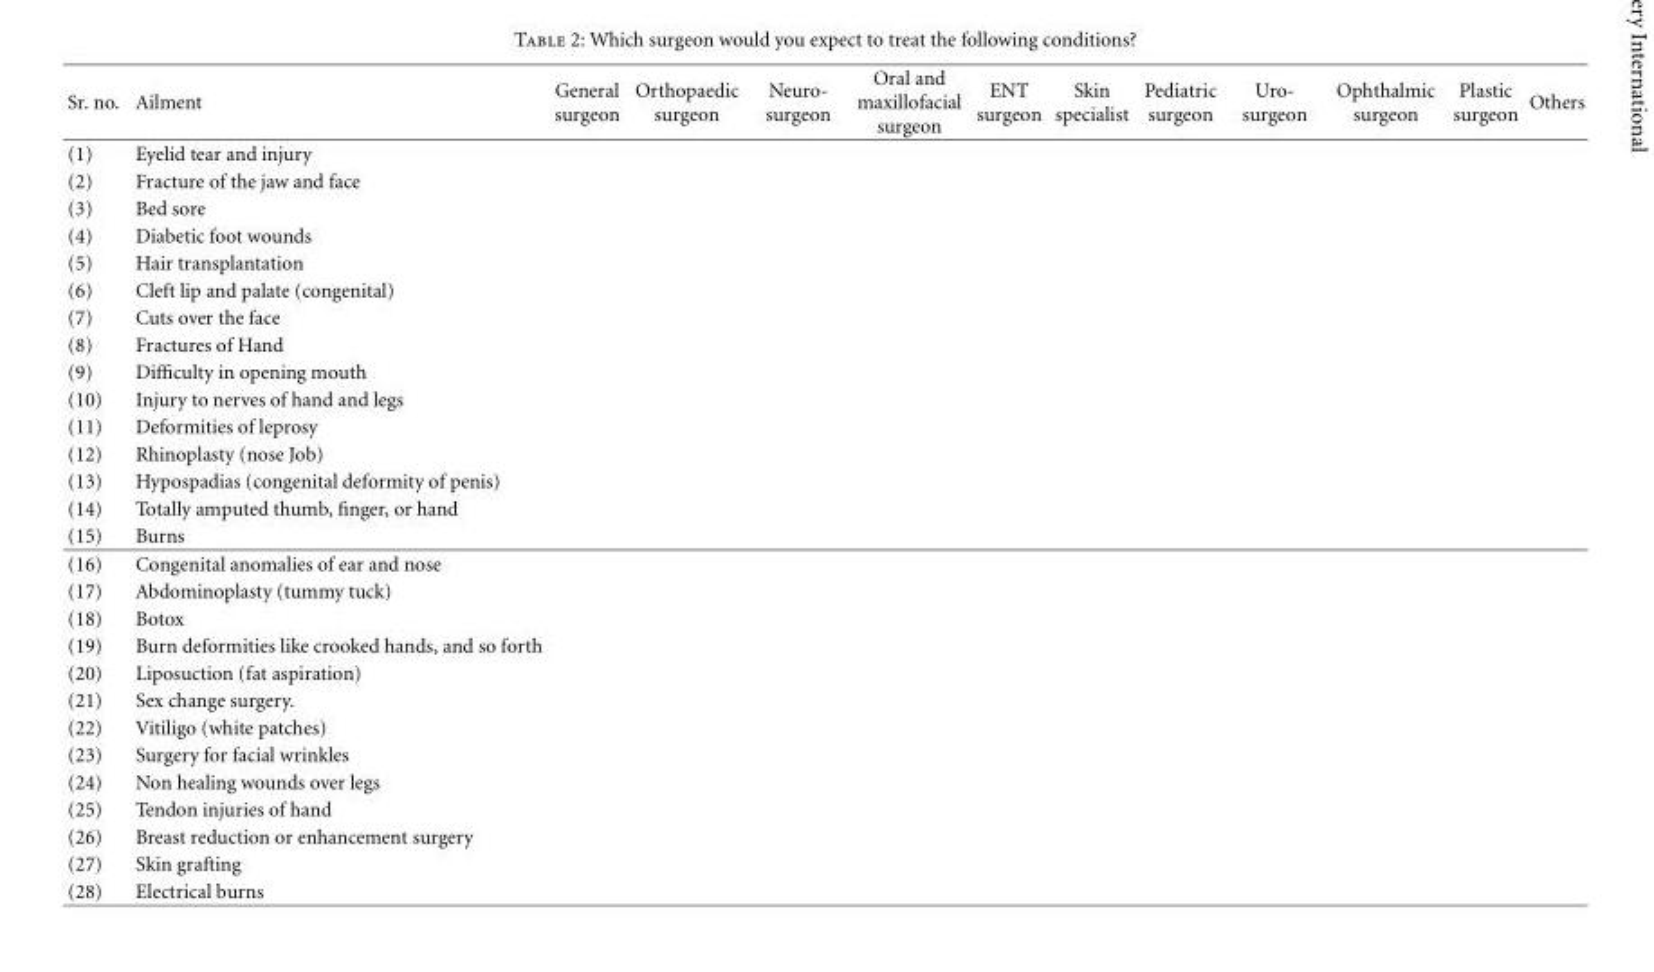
<table><thead><tr><td>Sr. no.</td><td>Ailment</td><td>General surgeon</td><td>Orthopaedic surgeon</td><td>Neuro- surgeon</td><td>Oral and maxillofacial surgeon</td><td>ENT surgeon</td><td>Skin specialist</td><td>Pediatric surgeon</td><td>Uro- surgeon</td><td>Ophthalmic surgeon</td><td>Plastic surgeon</td><td>Others</td></tr></thead><tbody><tr><td>(1)</td><td>Eyelid tear and injury</td><td></td><td></td><td></td><td></td><td></td><td></td><td></td><td></td><td></td><td></td><td></td></tr><tr><td>(2)</td><td>Fracture of the jaw and face</td><td></td><td></td><td></td><td></td><td></td><td></td><td></td><td></td><td></td><td></td><td></td></tr><tr><td>(3)</td><td>Bed sore</td><td></td><td></td><td></td><td></td><td></td><td></td><td></td><td></td><td></td><td></td><td></td></tr><tr><td>(4)</td><td>Diabetic foot wounds</td><td></td><td></td><td></td><td></td><td></td><td></td><td></td><td></td><td></td><td></td><td></td></tr><tr><td>(5)</td><td>Hair transplantation</td><td></td><td></td><td></td><td></td><td></td><td></td><td></td><td></td><td></td><td></td><td></td></tr><tr><td>(6)</td><td>Cleft lip and palate (congenital)</td><td></td><td></td><td></td><td></td><td></td><td></td><td></td><td></td><td></td><td></td><td></td></tr><tr><td>(7)</td><td>Cuts over the face</td><td></td><td></td><td></td><td></td><td></td><td></td><td></td><td></td><td></td><td></td><td></td></tr><tr><td>(8)</td><td>Fractures of Hand</td><td></td><td></td><td></td><td></td><td></td><td></td><td></td><td></td><td></td><td></td><td></td></tr><tr><td>(9)</td><td>Difficulty in opening mouth</td><td></td><td></td><td></td><td></td><td></td><td></td><td></td><td></td><td></td><td></td><td></td></tr><tr><td>(10)</td><td>Injury to nerves of hand and legs</td><td></td><td></td><td></td><td></td><td></td><td></td><td></td><td></td><td></td><td></td><td></td></tr><tr><td>(11)</td><td>Deformities of leprosy</td><td></td><td></td><td></td><td></td><td></td><td></td><td></td><td></td><td></td><td></td><td></td></tr><tr><td>(12)</td><td>Rhinoplasty (nose Job)</td><td></td><td></td><td></td><td></td><td></td><td></td><td></td><td></td><td></td><td></td><td></td></tr><tr><td>(13)</td><td>Hypospadias (congenital deformity of penis)</td><td></td><td></td><td></td><td></td><td></td><td></td><td></td><td></td><td></td><td></td><td></td></tr><tr><td>(14)</td><td>Totally amputed thumb, finger, or hand</td><td></td><td></td><td></td><td></td><td></td><td></td><td></td><td></td><td></td><td></td><td></td></tr><tr><td>(15)</td><td>Burns</td><td></td><td></td><td></td><td></td><td></td><td></td><td></td><td></td><td></td><td></td><td></td></tr><tr><td>(16)</td><td>Congenital anomalies of ear and nose</td><td></td><td></td><td></td><td></td><td></td><td></td><td></td><td></td><td></td><td></td><td></td></tr><tr><td>(17)</td><td>Abdominoplasty (tummy tuck)</td><td></td><td></td><td></td><td></td><td></td><td></td><td></td><td></td><td></td><td></td><td></td></tr><tr><td>(18)</td><td>Botox</td><td></td><td></td><td></td><td></td><td></td><td></td><td></td><td></td><td></td><td></td><td></td></tr><tr><td>(19)</td><td>Burn deformities like crooked hands, and so forth</td><td></td><td></td><td></td><td></td><td></td><td></td><td></td><td></td><td></td><td></td><td></td></tr><tr><td>(20)</td><td>Liposuction (fat aspiration)</td><td></td><td></td><td></td><td></td><td></td><td></td><td></td><td></td><td></td><td></td><td></td></tr><tr><td>(21)</td><td>Sex change surgery.</td><td></td><td></td><td></td><td></td><td></td><td></td><td></td><td></td><td></td><td></td><td></td></tr><tr><td>(22)</td><td>Vitiligo (white patches)</td><td></td><td></td><td></td><td></td><td></td><td></td><td></td><td></td><td></td><td></td><td></td></tr><tr><td>(23)</td><td>Surgery for facial wrinkles</td><td></td><td></td><td></td><td></td><td></td><td></td><td></td><td></td><td></td><td></td><td></td></tr><tr><td>(24)</td><td>Non healing wounds over legs</td><td></td><td></td><td></td><td></td><td></td><td></td><td></td><td></td><td></td><td></td><td></td></tr><tr><td>(25)</td><td>Tendon injuries of hand</td><td></td><td></td><td></td><td></td><td></td><td></td><td></td><td></td><td></td><td></td><td></td></tr><tr><td>(26)</td><td>Breast reduction or enhancement surgery</td><td></td><td></td><td></td><td></td><td></td><td></td><td></td><td></td><td></td><td></td><td></td></tr><tr><td>(27)</td><td>Skin grafting</td><td></td><td></td><td></td><td></td><td></td><td></td><td></td><td></td><td></td><td></td><td></td></tr><tr><td>(28)</td><td>Electrical burns</td><td></td><td></td><td></td><td></td><td></td><td></td><td></td><td></td><td></td><td></td><td></td></tr></tbody></table>